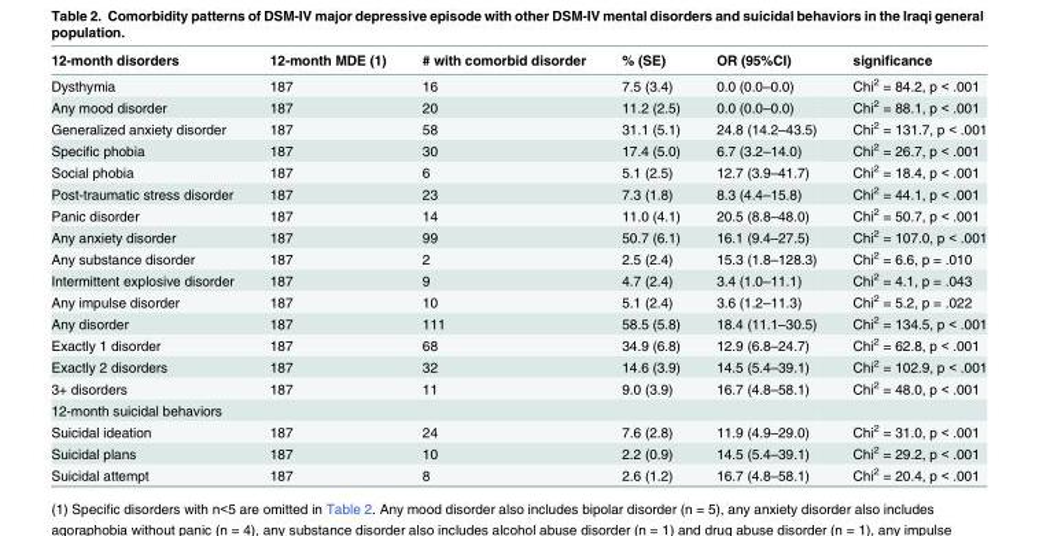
<table><thead><tr><td>12-month disorders</td><td>12-month MDE (1)</td><td># with comorbid disorder</td><td>% (SE)</td><td>OR (95%CI)</td><td>significance</td></tr></thead><tbody><tr><td>Dysthymia</td><td>187</td><td>16</td><td>7.5 (3.4)</td><td>0.0 (0.0–0.0)</td><td>Chi<sup>2</sup> = 84.2, p &lt; .001</td></tr><tr><td>Any mood disorder</td><td>187</td><td>20</td><td>11.2 (2.5)</td><td>0.0 (0.0–0.0)</td><td>Chi<sup>2</sup> = 88.1, p &lt; .001</td></tr><tr><td>Generalized anxiety disorder</td><td>187</td><td>58</td><td>31.1 (5.1)</td><td>24.8 (14.2–43.5)</td><td>Chi<sup>2</sup> = 131.7, p &lt; .001</td></tr><tr><td>Specific phobia</td><td>187</td><td>30</td><td>17.4 (5.0)</td><td>6.7 (3.2–14.0)</td><td>Chi<sup>2</sup> = 26.7, p &lt; .001</td></tr><tr><td>Social phobia</td><td>187</td><td>6</td><td>5.1 (2.5)</td><td>12.7 (3.9–41.7)</td><td>Chi<sup>2</sup> = 18.4, p &lt; .001</td></tr><tr><td>Post-traumatic stress disorder</td><td>187</td><td>23</td><td>7.3 (1.8)</td><td>8.3 (4.4–15.8)</td><td>Chi<sup>2</sup> = 44.1, p &lt; .001</td></tr><tr><td>Panic disorder</td><td>187</td><td>14</td><td>11.0 (4.1)</td><td>20.5 (8.8–48.0)</td><td>Chi<sup>2</sup> = 50.7, p &lt; .001</td></tr><tr><td>Any anxiety disorder</td><td>187</td><td>99</td><td>50.7 (6.1)</td><td>16.1 (9.4–27.5)</td><td>Chi<sup>2</sup> = 107.0, p &lt; .001</td></tr><tr><td>Any substance disorder</td><td>187</td><td>2</td><td>2.5 (2.4)</td><td>15.3 (1.8–128.3)</td><td>Chi<sup>2</sup> = 6.6, p = .010</td></tr><tr><td>Intermittent explosive disorder</td><td>187</td><td>9</td><td>4.7 (2.4)</td><td>3.4 (1.0–11.1)</td><td>Chi<sup>2</sup> = 4.1, p = .043</td></tr><tr><td>Any impulse disorder</td><td>187</td><td>10</td><td>5.1 (2.4)</td><td>3.6 (1.2–11.3)</td><td>Chi<sup>2</sup> = 5.2, p = .022</td></tr><tr><td>Any disorder</td><td>187</td><td>111</td><td>58.5 (5.8)</td><td>18.4 (11.1–30.5)</td><td>Chi<sup>2</sup> = 134.5, p &lt; .001</td></tr><tr><td>Exactly 1 disorder</td><td>187</td><td>68</td><td>34.9 (6.8)</td><td>12.9 (6.8–24.7)</td><td>Chi<sup>2</sup> = 62.8, p &lt; .001</td></tr><tr><td>Exactly 2 disorders</td><td>187</td><td>32</td><td>14.6 (3.9)</td><td>14.5 (5.4–39.1)</td><td>Chi<sup>2</sup> = 102.9, p &lt; .001</td></tr><tr><td>3+ disorders</td><td>187</td><td>11</td><td>9.0 (3.9)</td><td>16.7 (4.8–58.1)</td><td>Chi<sup>2</sup> = 48.0, p &lt; .001</td></tr><tr><td colspan="6">12-month suicidal behaviors</td></tr><tr><td>Suicidal ideation</td><td>187</td><td>24</td><td>7.6 (2.8)</td><td>11.9 (4.9–29.0)</td><td>Chi<sup>2</sup> = 31.0, p &lt; .001</td></tr><tr><td>Suicidal plans</td><td>187</td><td>10</td><td>2.2 (0.9)</td><td>14.5 (5.4–39.1)</td><td>Chi<sup>2</sup> = 29.2, p &lt; .001</td></tr><tr><td>Suicidal attempt</td><td>187</td><td>8</td><td>2.6 (1.2)</td><td>16.7 (4.8–58.1)</td><td>Chi<sup>2</sup> = 20.4, p &lt; .001</td></tr></tbody></table>